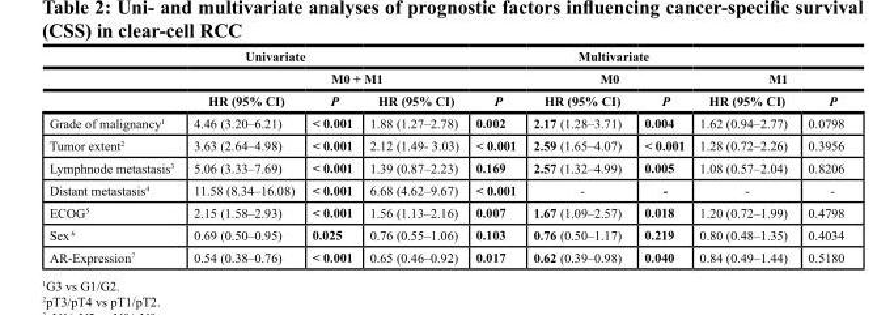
<table><thead><tr><td rowspan="3"></td><td colspan="2">Univariate</td><td colspan="6">Multivariate</td></tr><tr><td colspan="4">M0 + M1</td><td colspan="2">M0</td><td colspan="2">M1</td></tr><tr><td>HR (95% CI)</td><td>P</td><td>HR (95% CI)</td><td>P</td><td>HR (95% CI)</td><td>P</td><td>HR (95% CI)</td><td>P</td></tr></thead><tbody><tr><td>Grade of malignancy<sup>1</sup></td><td>4.46 (3.20–6.21)</td><td>&lt; 0.001</td><td>1.88 (1.27–2.78)</td><td>0.002</td><td>2.17 (1.28–3.71)</td><td>0.004</td><td>1.62 (0.94–2.77)</td><td>0.0798</td></tr><tr><td>Tumor extent<sup>2</sup></td><td>3.63 (2.64–4.98)</td><td>&lt; 0.001</td><td>2.12 (1.49- 3.03)</td><td>&lt; 0.001</td><td>2.59 (1.65–4.07)</td><td>&lt; 0.001</td><td>1.28 (0.72–2.26)</td><td>0.3956</td></tr><tr><td>Lymphnode metastasis<sup>3</sup></td><td>5.06 (3.33–7.69)</td><td>&lt; 0.001</td><td>1.39 (0.87–2.23)</td><td>0.169</td><td>2.57 (1.32–4.99)</td><td>0.005</td><td>1.08 (0.57–2.04)</td><td>0.8206</td></tr><tr><td>Distant metastasis<sup>4</sup></td><td>11.58 (8.34–16.08)</td><td>&lt; 0.001</td><td>6.68 (4.62–9.67)</td><td>&lt; 0.001</td><td>-</td><td>-</td><td>-</td><td>-</td></tr><tr><td>ECOG<sup>5</sup></td><td>2.15 (1.58–2.93)</td><td>&lt; 0.001</td><td>1.56 (1.13–2.16)</td><td>0.007</td><td>1.67 (1.09–2.57)</td><td>0.018</td><td>1.20 (0.72–1.99)</td><td>0.4798</td></tr><tr><td>Sex <sup>6</sup></td><td>0.69 (0.50–0.95)</td><td>0.025</td><td>0.76 (0.55–1.06)</td><td>0.103</td><td>0.76 (0.50–1.17)</td><td>0.219</td><td>0.80 (0.48–1.35)</td><td>0.4034</td></tr><tr><td>AR-Expression<sup>7</sup></td><td>0.54 (0.38–0.76)</td><td>&lt; 0.001</td><td>0.65 (0.46–0.92)</td><td>0.017</td><td>0.62 (0.39–0.98)</td><td>0.040</td><td>0.84 (0.49–1.44)</td><td>0.5180</td></tr></tbody></table>